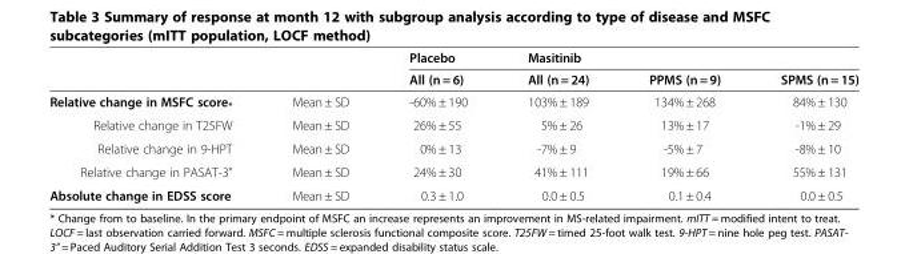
<table><thead><tr><td rowspan="2"></td><td rowspan="2"></td><td rowspan="2">Placebo All (n = 6)</td><td rowspan="2">Masitinib All (n = 24)</td><td rowspan="2">PPMS (n = 9)</td><td rowspan="2">SPMS (n = 15)</td></tr><tr></tr></thead><tbody><tr><td>Relative change in MSFC score<sub>*</sub></td><td>Mean ± SD</td><td>-60% ± 190</td><td>103% ± 189</td><td>134% ± 268</td><td>84% ± 130</td></tr><tr><td>Relative change in T25FW</td><td>Mean ± SD</td><td>26% ± 55</td><td>5% ± 26</td><td>13% ± 17</td><td>-1% ± 29</td></tr><tr><td>Relative change in 9-HPT</td><td>Mean ± SD</td><td>0% ± 13</td><td>-7% ± 9</td><td>-5% ± 7</td><td>-8% ± 10</td></tr><tr><td>Relative change in PASAT-3”</td><td>Mean ± SD</td><td>24% ± 30</td><td>41% ± 111</td><td>19% ± 66</td><td>55% ± 131</td></tr><tr><td>Absolute change in EDSS score</td><td>Mean ± SD</td><td>0.3 ± 1.0</td><td>0.0 ± 0.5</td><td>0.1 ± 0.4</td><td>0.0 ± 0.5</td></tr></tbody></table>